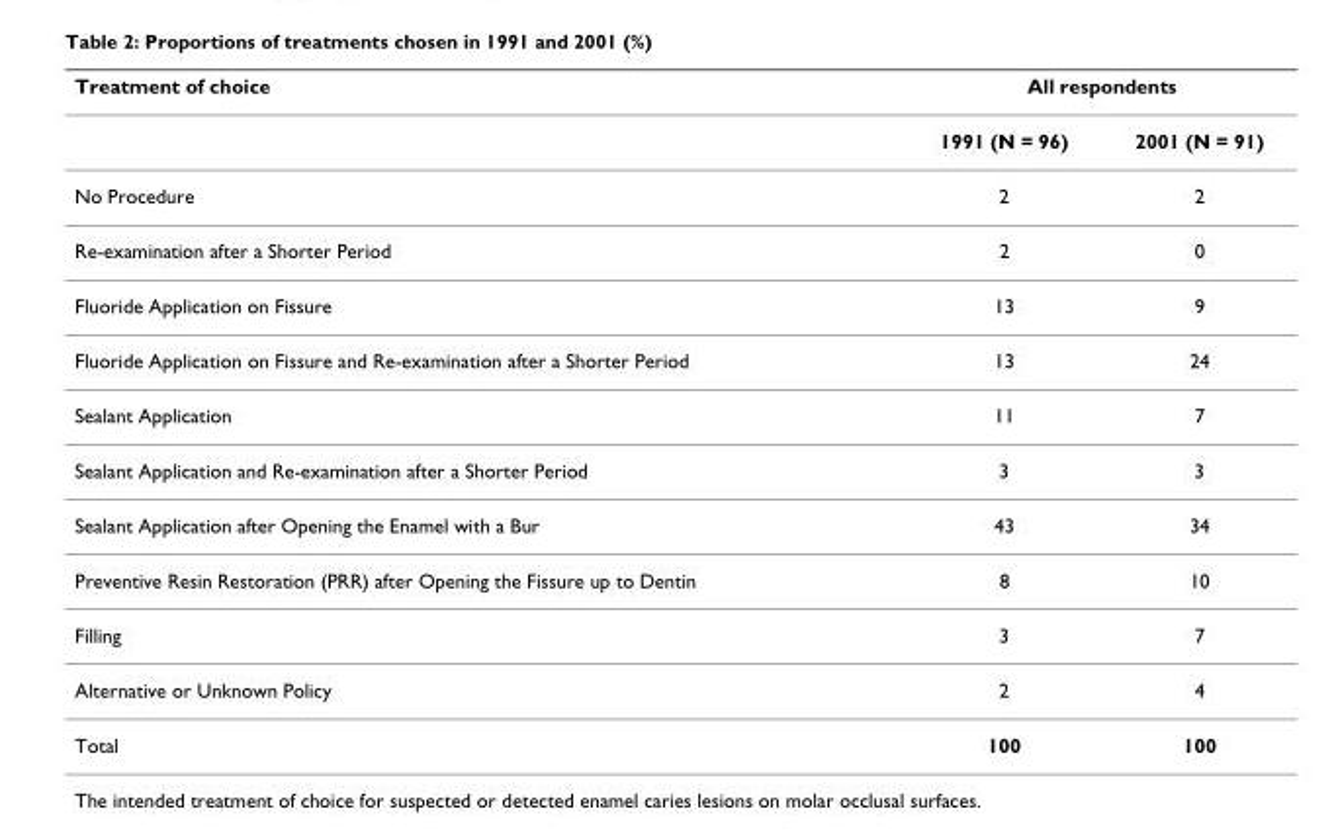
<table><thead><tr><td rowspan="2">Treatment of choice</td><td colspan="2">All respondents</td></tr><tr><td>1991 (N = 96)</td><td>2001 (N = 91)</td></tr></thead><tbody><tr><td>No Procedure</td><td>2</td><td>2</td></tr><tr><td>Re-examination after a Shorter Period</td><td>2</td><td>0</td></tr><tr><td>Fluoride Application on Fissure</td><td>13</td><td>9</td></tr><tr><td>Fluoride Application on Fissure and Re-examination after a Shorter Period</td><td>13</td><td>24</td></tr><tr><td>Sealant Application</td><td>11</td><td>7</td></tr><tr><td>Sealant Application and Re-examination after a Shorter Period</td><td>3</td><td>3</td></tr><tr><td>Sealant Application after Opening the Enamel with a Bur</td><td>43</td><td>34</td></tr><tr><td>Preventive Resin Restoration (PRR) after Opening the Fissure up to Dentin</td><td>8</td><td>10</td></tr><tr><td>Filling</td><td>3</td><td>7</td></tr><tr><td>Alternative or Unknown Policy</td><td>2</td><td>4</td></tr><tr><td>Total</td><td>100</td><td>100</td></tr></tbody></table>